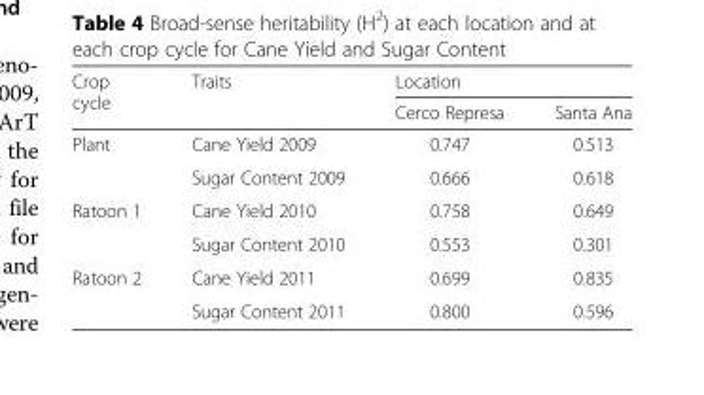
<table><thead><tr><td rowspan="2">Crop cycle</td><td rowspan="2">Traits</td><td colspan="2">Location</td></tr><tr><td>Cerco Represa</td><td>Santa Ana</td></tr></thead><tbody><tr><td rowspan="2">Plant</td><td>Cane Yield 2009</td><td>0.747</td><td>0.513</td></tr><tr><td>Sugar Content 2009</td><td>0.666</td><td>0.618</td></tr><tr><td rowspan="2">Ratoon 1</td><td>Cane Yield 2010</td><td>0.758</td><td>0.649</td></tr><tr><td>Sugar Content 2010</td><td>0.553</td><td>0.301</td></tr><tr><td rowspan="2">Ratoon 2</td><td>Cane Yield 2011</td><td>0.699</td><td>0.835</td></tr><tr><td>Sugar Content 2011</td><td>0.800</td><td>0.596</td></tr></tbody></table>